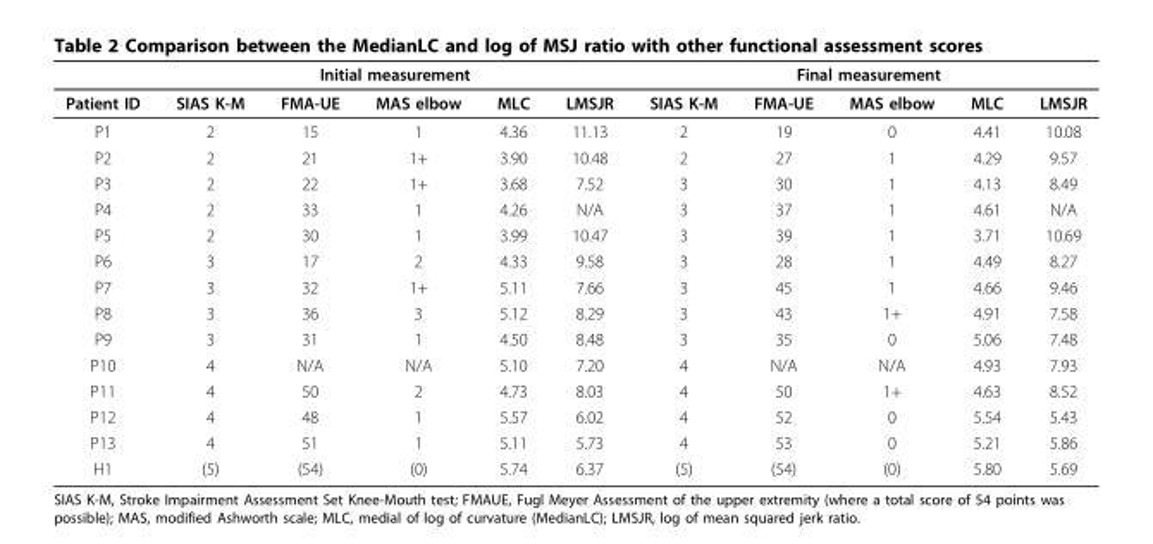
<table><thead><tr><td rowspan="2">Patient ID</td><td colspan="5">Initial measurement</td><td colspan="5">Final measurement</td></tr><tr><td>SIAS K-M</td><td>FMA-UE</td><td>MAS elbow</td><td>MLC</td><td>LMSJR</td><td>SIAS K-M</td><td>FMA-UE</td><td>MAS elbow</td><td>MLC</td><td>LMSJR</td></tr></thead><tbody><tr><td>P1</td><td>2</td><td>15</td><td>1</td><td>4.36</td><td>11.13</td><td>2</td><td>19</td><td>0</td><td>4.41</td><td>10.08</td></tr><tr><td>P2</td><td>2</td><td>21</td><td>1+</td><td>3.90</td><td>10.48</td><td>2</td><td>27</td><td>1</td><td>4.29</td><td>9.57</td></tr><tr><td>P3</td><td>2</td><td>22</td><td>1+</td><td>3.68</td><td>7.52</td><td>3</td><td>30</td><td>1</td><td>4.13</td><td>8.49</td></tr><tr><td>P4</td><td>2</td><td>33</td><td>1</td><td>4.26</td><td>N/A</td><td>3</td><td>37</td><td>1</td><td>4.61</td><td>N/A</td></tr><tr><td>P5</td><td>2</td><td>30</td><td>1</td><td>3.99</td><td>10.47</td><td>3</td><td>39</td><td>1</td><td>3.71</td><td>10.69</td></tr><tr><td>P6</td><td>3</td><td>17</td><td>2</td><td>4.33</td><td>9.58</td><td>3</td><td>28</td><td>1</td><td>4.49</td><td>8.27</td></tr><tr><td>P7</td><td>3</td><td>32</td><td>1+</td><td>5.11</td><td>7.66</td><td>3</td><td>45</td><td>1</td><td>4.66</td><td>9.46</td></tr><tr><td>P8</td><td>3</td><td>36</td><td>3</td><td>5.12</td><td>8.29</td><td>3</td><td>43</td><td>1+</td><td>4.91</td><td>7.58</td></tr><tr><td>P9</td><td>3</td><td>31</td><td>1</td><td>4.50</td><td>8.48</td><td>3</td><td>35</td><td>0</td><td>5.06</td><td>7.48</td></tr><tr><td>P10</td><td>4</td><td>N/A</td><td>N/A</td><td>5.10</td><td>7.20</td><td>4</td><td>N/A</td><td>N/A</td><td>4.93</td><td>7.93</td></tr><tr><td>P11</td><td>4</td><td>50</td><td>2</td><td>4.73</td><td>8.03</td><td>4</td><td>50</td><td>1+</td><td>4.63</td><td>8.52</td></tr><tr><td>P12</td><td>4</td><td>48</td><td>1</td><td>5.57</td><td>6.02</td><td>4</td><td>52</td><td>0</td><td>5.54</td><td>5.43</td></tr><tr><td>P13</td><td>4</td><td>51</td><td>1</td><td>5.11</td><td>5.73</td><td>4</td><td>53</td><td>0</td><td>5.21</td><td>5.86</td></tr><tr><td>H1</td><td>(5)</td><td>(54)</td><td>(0)</td><td>5.74</td><td>6.37</td><td>(5)</td><td>(54)</td><td>(0)</td><td>5.80</td><td>5.69</td></tr></tbody></table>